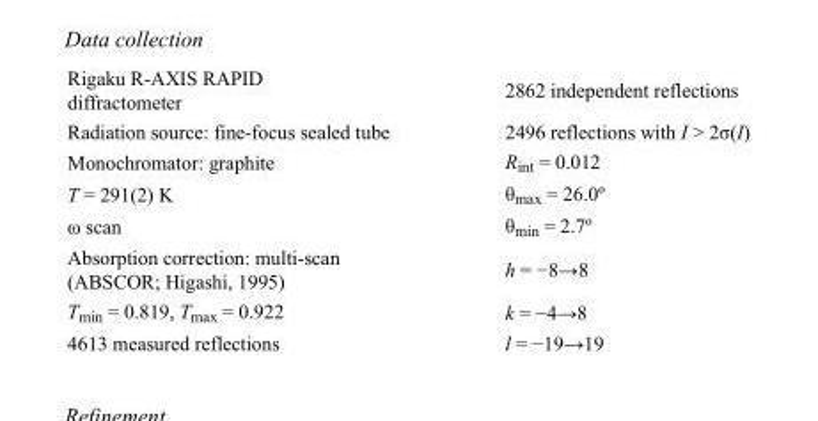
<table><tbody><tr><td>Rigaku R-AXIS RAPID diffractometer</td><td>2862 independent reflections</td></tr><tr><td>Radiation source: fine-focus sealed tube</td><td>2496 reflections with I &gt; 2σ(I)</td></tr><tr><td>Monochromator: graphite</td><td>R<sub>int</sub> = 0.012</td></tr><tr><td>T = 291(2) K</td><td>θ<sub>max</sub> = 26.0º</td></tr><tr><td>ω scan</td><td>θ<sub>min</sub> = 2.7º</td></tr><tr><td>Absorption correction: multi-scan (ABSCOR; Higashi, 1995)</td><td>h = −8→8</td></tr><tr><td>T<sub>min</sub> = 0.819, T<sub>max</sub> = 0.922</td><td>k = −4→8</td></tr><tr><td>4613 measured reflections</td><td>l = −19→19</td></tr></tbody></table>